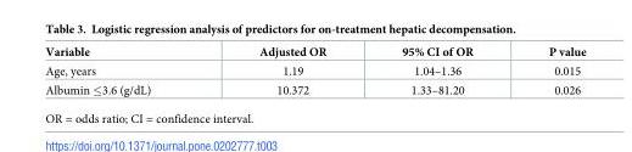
<table><thead><tr><td>Variable</td><td>Adjusted OR</td><td>95% CI of OR</td><td>P value</td></tr></thead><tbody><tr><td>Age, years</td><td>1.19</td><td>1.04–1.36</td><td>0.015</td></tr><tr><td>Albumin ≤3.6 (g/dL)</td><td>10.372</td><td>1.33–81.20</td><td>0.026</td></tr></tbody></table>